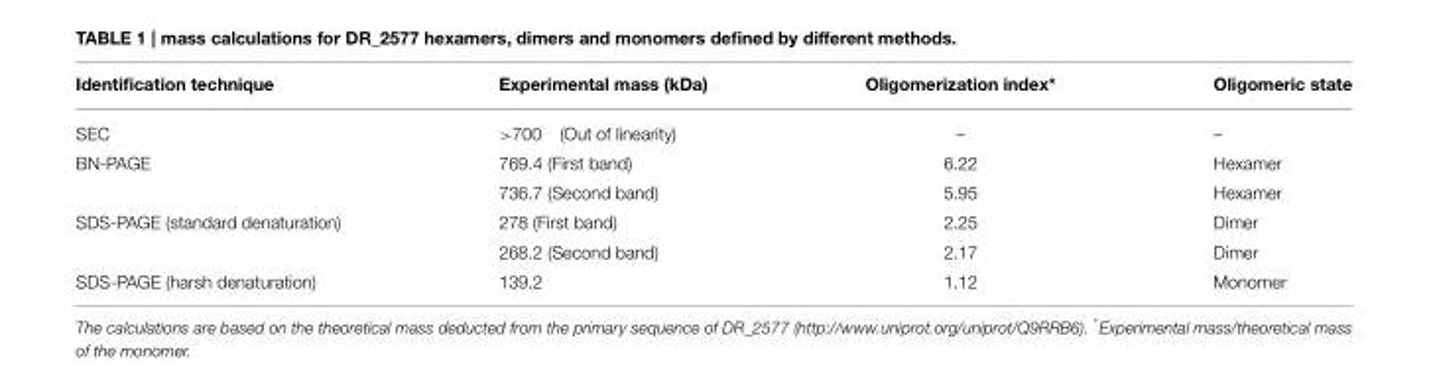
<table><thead><tr><td>Identification technique</td><td>Experimental mass (kDa)</td><td>Oligomerization index*</td><td>Oligomeric state</td></tr></thead><tbody><tr><td>SEC</td><td>&gt;700 (Out of linearity)</td><td>–</td><td>–</td></tr><tr><td rowspan="2">BN-PAGE</td><td>769.4 (First band)</td><td>6.22</td><td>Hexamer</td></tr><tr><td>736.7 (Second band)</td><td>5.95</td><td>Hexamer</td></tr><tr><td rowspan="2">SDS-PAGE (standard denaturation)</td><td>278 (First band)</td><td>2.25</td><td>Dimer</td></tr><tr><td>268.2 (Second band)</td><td>2.17</td><td>Dimer</td></tr><tr><td>SDS-PAGE (harsh denaturation)</td><td>139.2</td><td>1.12</td><td>Monomer</td></tr></tbody></table>